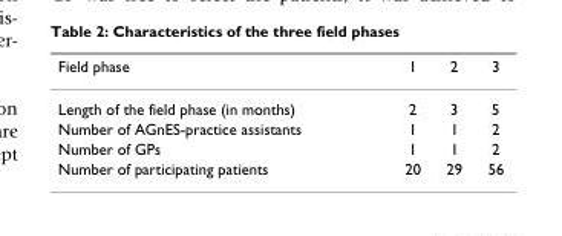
<table><thead><tr><td>Field phase</td><td>1</td><td>2</td><td>3</td></tr></thead><tbody><tr><td>Length of the field phase (in months)</td><td>2</td><td>3</td><td>5</td></tr><tr><td>Number of AGnES-practice assistants</td><td>1</td><td>1</td><td>2</td></tr><tr><td>Number of GPs</td><td>1</td><td>1</td><td>2</td></tr><tr><td>Number of participating patients</td><td>20</td><td>29</td><td>56</td></tr></tbody></table>